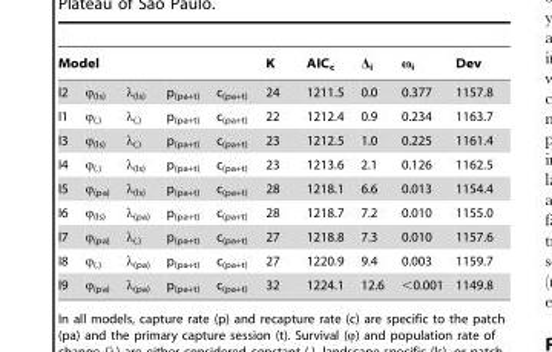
<table><thead><tr><td colspan="2">Model</td><td rowspan="2">λ<sub>(ls)</sub></td><td rowspan="2">p<sub>(pa+t)</sub></td><td rowspan="2">c<sub>(pa+t)</sub></td><td rowspan="2">K 24</td><td rowspan="2">AIC<sub>c</sub> 1211.5</td><td rowspan="2">Δ<sub>i</sub> 0.0</td><td rowspan="2">ω<sub>i</sub> 0.377</td><td rowspan="2">Dev 1157.8</td></tr><tr><td>I2</td><td>ϕ<sub>(ls)</sub></td></tr></thead><tbody><tr><td>I1</td><td>ϕ<sub>(.)</sub></td><td>λ<sub>(.)</sub></td><td>p<sub>(pa+t)</sub></td><td>c<sub>(pa+t)</sub></td><td>22</td><td>1212.4</td><td>0.9</td><td>0.234</td><td>1163.7</td></tr><tr><td>I3</td><td>ϕ<sub>(ls)</sub></td><td>λ<sub>(.)</sub></td><td>p<sub>(pa+t)</sub></td><td>c<sub>(pa+t)</sub></td><td>23</td><td>1212.5</td><td>1.0</td><td>0.225</td><td>1161.4</td></tr><tr><td>I4</td><td>ϕ<sub>(.)</sub></td><td>λ<sub>(ls)</sub></td><td>p<sub>(pa+t)</sub></td><td>c<sub>(pa+t)</sub></td><td>23</td><td>1213.6</td><td>2.1</td><td>0.126</td><td>1162.5</td></tr><tr><td>I5</td><td>ϕ<sub>(pa)</sub></td><td>λ<sub>(ls)</sub></td><td>p<sub>(pa+t)</sub></td><td>c<sub>(pa+t)</sub></td><td>28</td><td>1218.1</td><td>6.6</td><td>0.013</td><td>1154.4</td></tr><tr><td>I6</td><td>ϕ<sub>(ls)</sub></td><td>λ<sub>(pa)</sub></td><td>p<sub>(pa+t)</sub></td><td>c<sub>(pa+t)</sub></td><td>28</td><td>1218.7</td><td>7.2</td><td>0.010</td><td>1155.0</td></tr><tr><td>I7</td><td>ϕ<sub>(pa)</sub></td><td>λ<sub>(.)</sub></td><td>p<sub>(pa+t)</sub></td><td>c<sub>(pa+t)</sub></td><td>27</td><td>1218.8</td><td>7.3</td><td>0.010</td><td>1157.6</td></tr><tr><td>I8</td><td>ϕ<sub>(.)</sub></td><td>λ<sub>(pa)</sub></td><td>p<sub>(pa+t)</sub></td><td>c<sub>(pa+t)</sub></td><td>27</td><td>1220.9</td><td>9.4</td><td>0.003</td><td>1159.7</td></tr><tr><td>I9</td><td>ϕ<sub>(pa)</sub></td><td>λ<sub>(pa)</sub></td><td>p<sub>(pa+t)</sub></td><td>c<sub>(pa+t)</sub></td><td>32</td><td>1224.1</td><td>12.6</td><td>&lt;0.001</td><td>1149.8</td></tr></tbody></table>